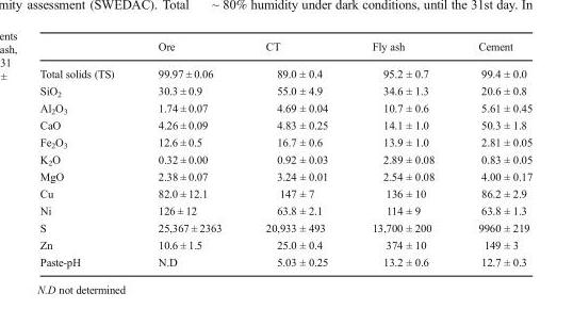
<table><thead><tr><td></td><td>Ore</td><td>CT</td><td>Fly ash</td><td>Cement</td></tr></thead><tbody><tr><td>Total solids (TS)</td><td>99.97 ± 0.06</td><td>89.0 ± 0.4</td><td>95.2 ± 0.7</td><td>99.4 ± 0.0</td></tr><tr><td>SiO<sub>2</sub></td><td>30.3 ± 0.9</td><td>55.0 ± 4.9</td><td>34.6 ± 1.3</td><td>20.6 ± 0.8</td></tr><tr><td>Al<sub>2</sub>O<sub>3</sub></td><td>1.74 ± 0.07</td><td>4.69 ± 0.04</td><td>10.7 ± 0.6</td><td>5.61 ± 0.45</td></tr><tr><td>CaO</td><td>4.26 ± 0.09</td><td>4.83 ± 0.25</td><td>14.1 ± 1.0</td><td>50.3 ± 1.8</td></tr><tr><td>Fe<sub>2</sub>O<sub>3</sub></td><td>12.6 ± 0.5</td><td>16.7 ± 0.6</td><td>13.9 ± 1.0</td><td>2.81 ± 0.05</td></tr><tr><td>K<sub>2</sub>O</td><td>0.32 ± 0.00</td><td>0.92 ± 0.03</td><td>2.89 ± 0.08</td><td>0.83 ± 0.05</td></tr><tr><td>MgO</td><td>2.38 ± 0.07</td><td>3.24 ± 0.01</td><td>2.54 ± 0.08</td><td>4.00 ± 0.17</td></tr><tr><td>Cu</td><td>82.0 ± 12.1</td><td>147 ± 7</td><td>136 ± 10</td><td>86.2 ± 2.9</td></tr><tr><td>Ni</td><td>126 ± 12</td><td>63.8 ± 2.1</td><td>114 ± 9</td><td>63.8 ± 1.3</td></tr><tr><td>S</td><td>25,367 ± 2363</td><td>20,933 ± 493</td><td>13,700 ± 200</td><td>9960 ± 219</td></tr><tr><td>Zn</td><td>10.6 ± 1.5</td><td>25.0 ± 0.4</td><td>374 ± 10</td><td>149 ± 3</td></tr><tr><td>Paste-pH</td><td>N.D</td><td>5.03 ± 0.25</td><td>13.2 ± 0.6</td><td>12.7 ± 0.3</td></tr></tbody></table>